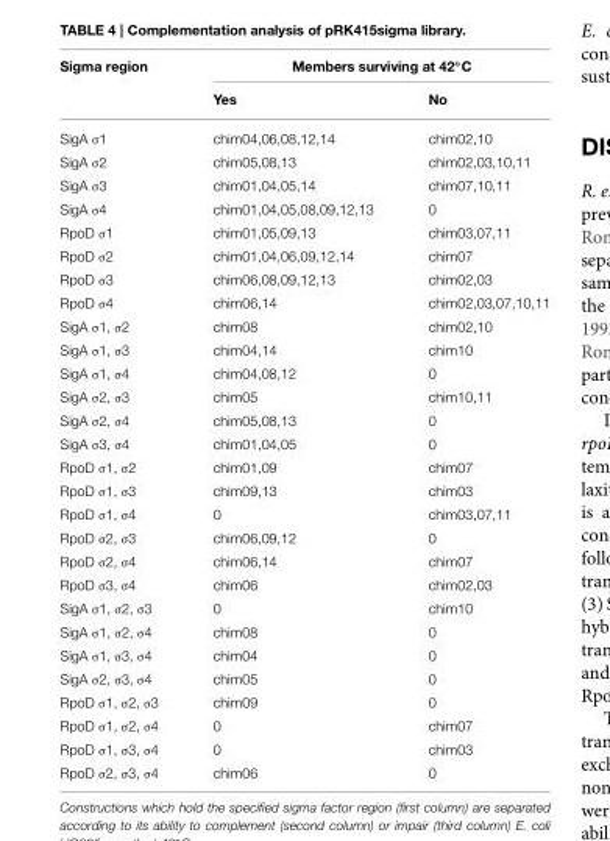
<table><thead><tr><td rowspan="2">Sigma region</td><td colspan="2">Members surviving at 42◦C</td></tr><tr><td>Yes</td><td>No</td></tr></thead><tbody><tr><td>SigA σ1</td><td>chim04,06,08,12,14</td><td>chim02,10</td></tr><tr><td>SigA σ2</td><td>chim05,08,13</td><td>chim02,03,10,11</td></tr><tr><td>SigA σ3</td><td>chim01,04,05,14</td><td>chim07,10,11</td></tr><tr><td>SigA σ4</td><td>chim01,04,05,08,09,12,13</td><td>0</td></tr><tr><td>RpoD σ1</td><td>chim01,05,09,13</td><td>chim03,07,11</td></tr><tr><td>RpoD σ2</td><td>chim01,04,06,09,12,14</td><td>chim07</td></tr><tr><td>RpoD σ3</td><td>chim06,08,09,12,13</td><td>chim02,03</td></tr><tr><td>RpoD σ4</td><td>chim06,14</td><td>chim02,03,07,10,11</td></tr><tr><td>SigA σ1, σ2</td><td>chim08</td><td>chim02,10</td></tr><tr><td>SigA σ1, σ3</td><td>chim04,14</td><td>chim10</td></tr><tr><td>SigA σ1, σ4</td><td>chim04,08,12</td><td>0</td></tr><tr><td>SigA σ2, σ3</td><td>chim05</td><td>chim10,11</td></tr><tr><td>SigA σ2, σ4</td><td>chim05,08,13</td><td>0</td></tr><tr><td>SigA σ3, σ4</td><td>chim01,04,05</td><td>0</td></tr><tr><td>RpoD σ1, σ2</td><td>chim01,09</td><td>chim07</td></tr><tr><td>RpoD σ1, σ3</td><td>chim09,13</td><td>chim03</td></tr><tr><td>RpoD σ1, σ4</td><td>0</td><td>chim03,07,11</td></tr><tr><td>RpoD σ2, σ3</td><td>chim06,09,12</td><td>0</td></tr><tr><td>RpoD σ2, σ4</td><td>chim06,14</td><td>chim07</td></tr><tr><td>RpoD σ3, σ4</td><td>chim06</td><td>chim02,03</td></tr><tr><td>SigA σ1, σ2, σ3</td><td>0</td><td>chim10</td></tr><tr><td>SigA σ1, σ2, σ4</td><td>chim08</td><td>0</td></tr><tr><td>SigA σ1, σ3, σ4</td><td>chim04</td><td>0</td></tr><tr><td>SigA σ2, σ3, σ4</td><td>chim05</td><td>0</td></tr><tr><td>RpoD σ1, σ2, σ3</td><td>chim09</td><td>0</td></tr><tr><td>RpoD σ1, σ2, σ4</td><td>0</td><td>chim07</td></tr><tr><td>RpoD σ1, σ3, σ4</td><td>0</td><td>chim03</td></tr><tr><td>RpoD σ2, σ3, σ4</td><td>chim06</td><td>0</td></tr></tbody></table>